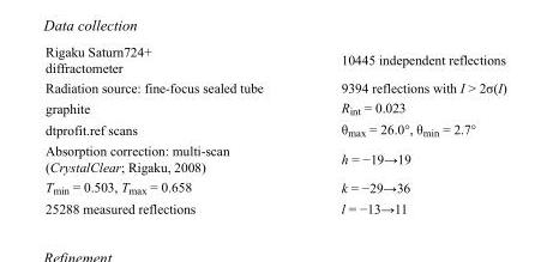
<table><tbody><tr><td>Rigaku Saturn724+ diffractometer</td><td>10445 independent reflections</td></tr><tr><td>Radiation source: fine-focus sealed tube</td><td>9394 reflections with I &gt; 2σ(I)</td></tr><tr><td>graphite</td><td>R<sub>int</sub> = 0.023</td></tr><tr><td>dtprofit.ref scans</td><td>θ<sub>max</sub> = 26.0°, θ<sub>min</sub> = 2.7°</td></tr><tr><td>Absorption correction: multi-scan (CrystalClear; Rigaku, 2008)</td><td>h = −19→19</td></tr><tr><td>T<sub>min</sub> = 0.503, T<sub>max</sub> = 0.658</td><td>k = −29→36</td></tr><tr><td>25288 measured reflections</td><td>l = −13→11</td></tr></tbody></table>